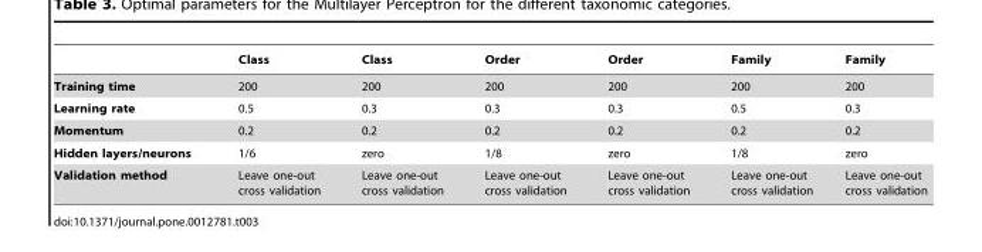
<table><thead><tr><td></td><td>Class</td><td>Class</td><td>Order</td><td>Order</td><td>Family</td><td>Family</td></tr></thead><tbody><tr><td>Training time</td><td>200</td><td>200</td><td>200</td><td>200</td><td>200</td><td>200</td></tr><tr><td>Learning rate</td><td>0.5</td><td>0.3</td><td>0.3</td><td>0.3</td><td>0.5</td><td>0.3</td></tr><tr><td>Momentum</td><td>0.2</td><td>0.2</td><td>0.2</td><td>0.2</td><td>0.2</td><td>0.2</td></tr><tr><td>Hidden layers/neurons</td><td>1/6</td><td>zero</td><td>1/8</td><td>zero</td><td>1/8</td><td>zero</td></tr><tr><td>Validation method</td><td>Leave one-out cross validation</td><td>Leave one-out cross validation</td><td>Leave one-out cross validation</td><td>Leave one-out cross validation</td><td>Leave one-out cross validation</td><td>Leave one-out cross validation</td></tr></tbody></table>